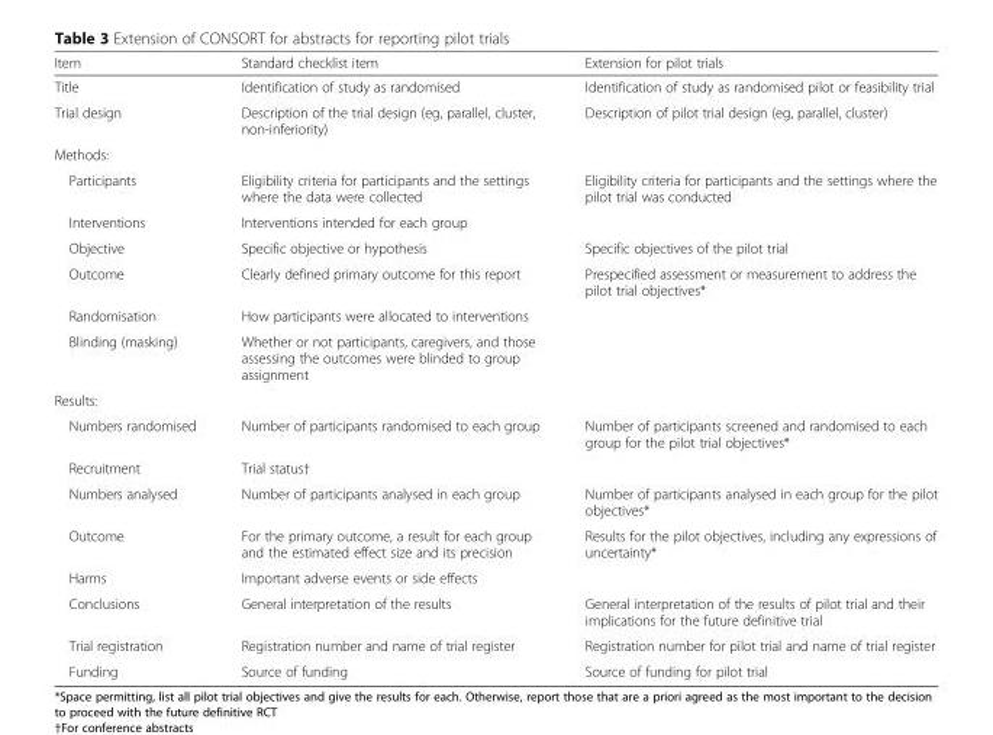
<table><thead><tr><td>Item</td><td>Standard checklist item</td><td>Extension for pilot trials</td></tr></thead><tbody><tr><td>Title</td><td>Identification of study as randomised</td><td>Identification of study as randomised pilot or feasibility trial</td></tr><tr><td>Trial design</td><td>Description of the trial design (eg, parallel, cluster, non-inferiority)</td><td>Description of pilot trial design (eg, parallel, cluster)</td></tr><tr><td colspan="3">Methods:</td></tr><tr><td>Participants</td><td>Eligibility criteria for participants and the settings where the data were collected</td><td>Eligibility criteria for participants and the settings where the pilot trial was conducted</td></tr><tr><td>Interventions</td><td>Interventions intended for each group</td><td></td></tr><tr><td>Objective</td><td>Specific objective or hypothesis</td><td>Specific objectives of the pilot trial</td></tr><tr><td>Outcome</td><td>Clearly defined primary outcome for this report</td><td>Prespecified assessment or measurement to address the pilot trial objectives*</td></tr><tr><td>Randomisation</td><td>How participants were allocated to interventions</td><td></td></tr><tr><td>Blinding (masking)</td><td>Whether or not participants, caregivers, and those assessing the outcomes were blinded to group assignment</td><td></td></tr><tr><td colspan="3">Results:</td></tr><tr><td>Numbers randomised</td><td>Number of participants randomised to each group</td><td>Number of participants screened and randomised to each group for the pilot trial objectives*</td></tr><tr><td>Recruitment</td><td>Trial status†</td><td></td></tr><tr><td>Numbers analysed</td><td>Number of participants analysed in each group</td><td>Number of participants analysed in each group for the pilot objectives*</td></tr><tr><td>Outcome</td><td>For the primary outcome, a result for each group and the estimated effect size and its precision</td><td>Results for the pilot objectives, including any expressions of uncertainty*</td></tr><tr><td>Harms</td><td>Important adverse events or side effects</td><td></td></tr><tr><td>Conclusions</td><td>General interpretation of the results</td><td>General interpretation of the results of pilot trial and their implications for the future definitive trial</td></tr><tr><td>Trial registration</td><td>Registration number and name of trial register</td><td>Registration number for pilot trial and name of trial register</td></tr><tr><td>Funding</td><td>Source of funding</td><td>Source of funding for pilot trial</td></tr></tbody></table>